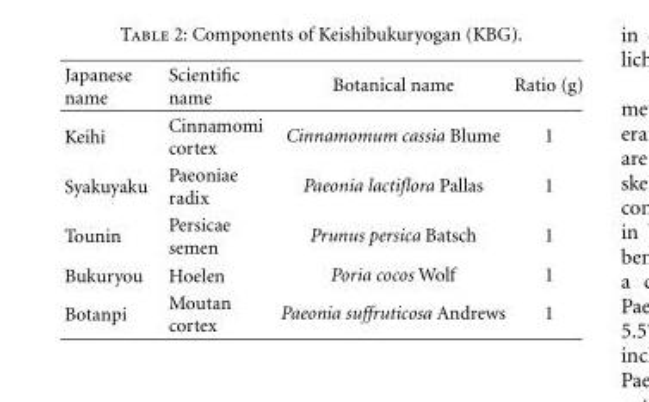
<table><thead><tr><td>Japanese name</td><td>Scientific name</td><td>Botanical name</td><td>Ratio (g)</td></tr></thead><tbody><tr><td>Keihi</td><td>Cinnamomi cortex</td><td>Cinnamomum cassia Blume</td><td>1</td></tr><tr><td>Syakuyaku</td><td>Paeoniae radix</td><td>Paeonia lactiflora Pallas</td><td>1</td></tr><tr><td>Tounin</td><td>Persicae semen</td><td>Prunus persica Batsch</td><td>1</td></tr><tr><td>Bukuryou</td><td>Hoelen</td><td>Poria cocos Wolf</td><td>1</td></tr><tr><td>Botanpi</td><td>Moutan cortex</td><td>Paeonia suffruticosa Andrews</td><td>1</td></tr></tbody></table>